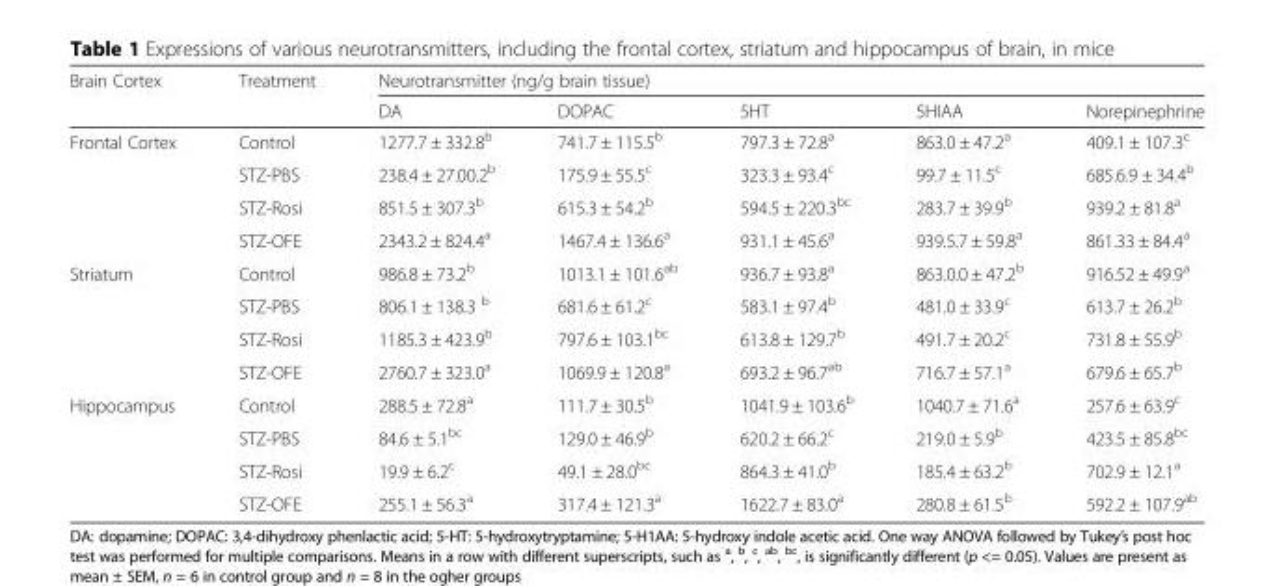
<table><thead><tr><td rowspan="2">Brain Cortex</td><td rowspan="2">Treatment</td><td colspan="5">Neurotransmitter (ng/g brain tissue)</td></tr><tr><td>DA</td><td>DOPAC</td><td>5HT</td><td>5HIAA</td><td>Norepinephrine</td></tr></thead><tbody><tr><td rowspan="4">Frontal Cortex</td><td>Control</td><td>1277.7 ± 332.8<sup>b</sup></td><td>741.7 ± 115.5<sup>b</sup></td><td>797.3 ± 72.8<sup>a</sup></td><td>863.0 ± 47.2<sup>a</sup></td><td>409.1 ± 107.3<sup>c</sup></td></tr><tr><td>STZ-PBS</td><td>238.4 ± 27.00.2<sup>b</sup></td><td>175.9 ± 55.5<sup>c</sup></td><td>323.3 ± 93.4<sup>c</sup></td><td>99.7 ± 11.5<sup>c</sup></td><td>685.6.9 ± 34.4<sup>b</sup></td></tr><tr><td>STZ-Rosi</td><td>851.5 ± 307.3<sup>b</sup></td><td>615.3 ± 54.2<sup>b</sup></td><td>594.5 ± 220.3<sup>bc</sup></td><td>283.7 ± 39.9<sup>b</sup></td><td>939.2 ± 81.8<sup>a</sup></td></tr><tr><td>STZ-OFE</td><td>2343.2 ± 824.4<sup>a</sup></td><td>1467.4 ± 136.6<sup>a</sup></td><td>931.1 ± 45.6<sup>a</sup></td><td>939.5.7 ± 59.8<sup>a</sup></td><td>861.33 ± 84.4<sup>a</sup></td></tr><tr><td rowspan="4">Striatum</td><td>Control</td><td>986.8 ± 73.2<sup>b</sup></td><td>1013.1 ± 101.6<sup>ab</sup></td><td>936.7 ± 93.8<sup>a</sup></td><td>863.0.0 ± 47.2<sup>b</sup></td><td>916.52 ± 49.9<sup>a</sup></td></tr><tr><td>STZ-PBS</td><td>806.1 ± 138.3 <sup>b</sup></td><td>681.6 ± 61.2<sup>c</sup></td><td>583.1 ± 97.4<sup>b</sup></td><td>481.0 ± 33.9<sup>c</sup></td><td>613.7 ± 26.2<sup>b</sup></td></tr><tr><td>STZ-Rosi</td><td>1185.3 ± 423.9<sup>b</sup></td><td>797.6 ± 103.1<sup>bc</sup></td><td>613.8 ± 129.7<sup>b</sup></td><td>491.7 ± 20.2<sup>c</sup></td><td>731.8 ± 55.9<sup>b</sup></td></tr><tr><td>STZ-OFE</td><td>2760.7 ± 323.0<sup>a</sup></td><td>1069.9 ± 120.8<sup>a</sup></td><td>693.2 ± 96.7<sup>ab</sup></td><td>716.7 ± 57.1<sup>a</sup></td><td>679.6 ± 65.7<sup>b</sup></td></tr><tr><td rowspan="4">Hippocampus</td><td>Control</td><td>288.5 ± 72.8<sup>a</sup></td><td>111.7 ± 30.5<sup>b</sup></td><td>1041.9 ± 103.6<sup>b</sup></td><td>1040.7 ± 71.6<sup>a</sup></td><td>257.6 ± 63.9<sup>c</sup></td></tr><tr><td>STZ-PBS</td><td>84.6 ± 5.1<sup>bc</sup></td><td>129.0 ± 46.9<sup>b</sup></td><td>620.2 ± 66.2<sup>c</sup></td><td>219.0 ± 5.9<sup>b</sup></td><td>423.5 ± 85.8<sup>bc</sup></td></tr><tr><td>STZ-Rosi</td><td>19.9 ± 6.2<sup>c</sup></td><td>49.1 ± 28.0<sup>bc</sup></td><td>864.3 ± 41.0<sup>b</sup></td><td>185.4 ± 63.2<sup>b</sup></td><td>702.9 ± 12.1<sup>a</sup></td></tr><tr><td>STZ-OFE</td><td>255.1 ± 56.3<sup>a</sup></td><td>317.4 ± 121.3<sup>a</sup></td><td>1622.7 ± 83.0<sup>a</sup></td><td>280.8 ± 61.5<sup>b</sup></td><td>592.2 ± 107.9<sup>ab</sup></td></tr></tbody></table>